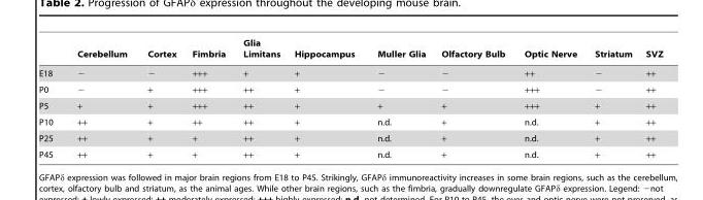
<table><thead><tr><td></td><td>Cerebellum</td><td>Cortex</td><td>Fimbria</td><td>Glia Limitans</td><td>Hippocampus</td><td>Muller Glia</td><td>Olfactory Bulb</td><td>Optic Nerve</td><td>Striatum</td><td>SVZ</td></tr></thead><tbody><tr><td>E18</td><td>−</td><td>−</td><td>+++</td><td>+</td><td>+</td><td>−</td><td>−</td><td>++</td><td>−</td><td>++</td></tr><tr><td>P0</td><td>−</td><td>+</td><td>+++</td><td>++</td><td>+</td><td>−</td><td>−</td><td>+++</td><td>−</td><td>++</td></tr><tr><td>P5</td><td>+</td><td>+</td><td>+++</td><td>++</td><td>+</td><td>+</td><td>+</td><td>+++</td><td>+</td><td>++</td></tr><tr><td>P10</td><td>++</td><td>+</td><td>++</td><td>++</td><td>+</td><td>n.d.</td><td>+</td><td>n.d.</td><td>+</td><td>++</td></tr><tr><td>P25</td><td>++</td><td>+</td><td>+</td><td>++</td><td>+</td><td>n.d.</td><td>+</td><td>n.d.</td><td>+</td><td>++</td></tr><tr><td>P45</td><td>++</td><td>+</td><td>+</td><td>++</td><td>+</td><td>n.d.</td><td>+</td><td>n.d.</td><td>+</td><td>++</td></tr></tbody></table>